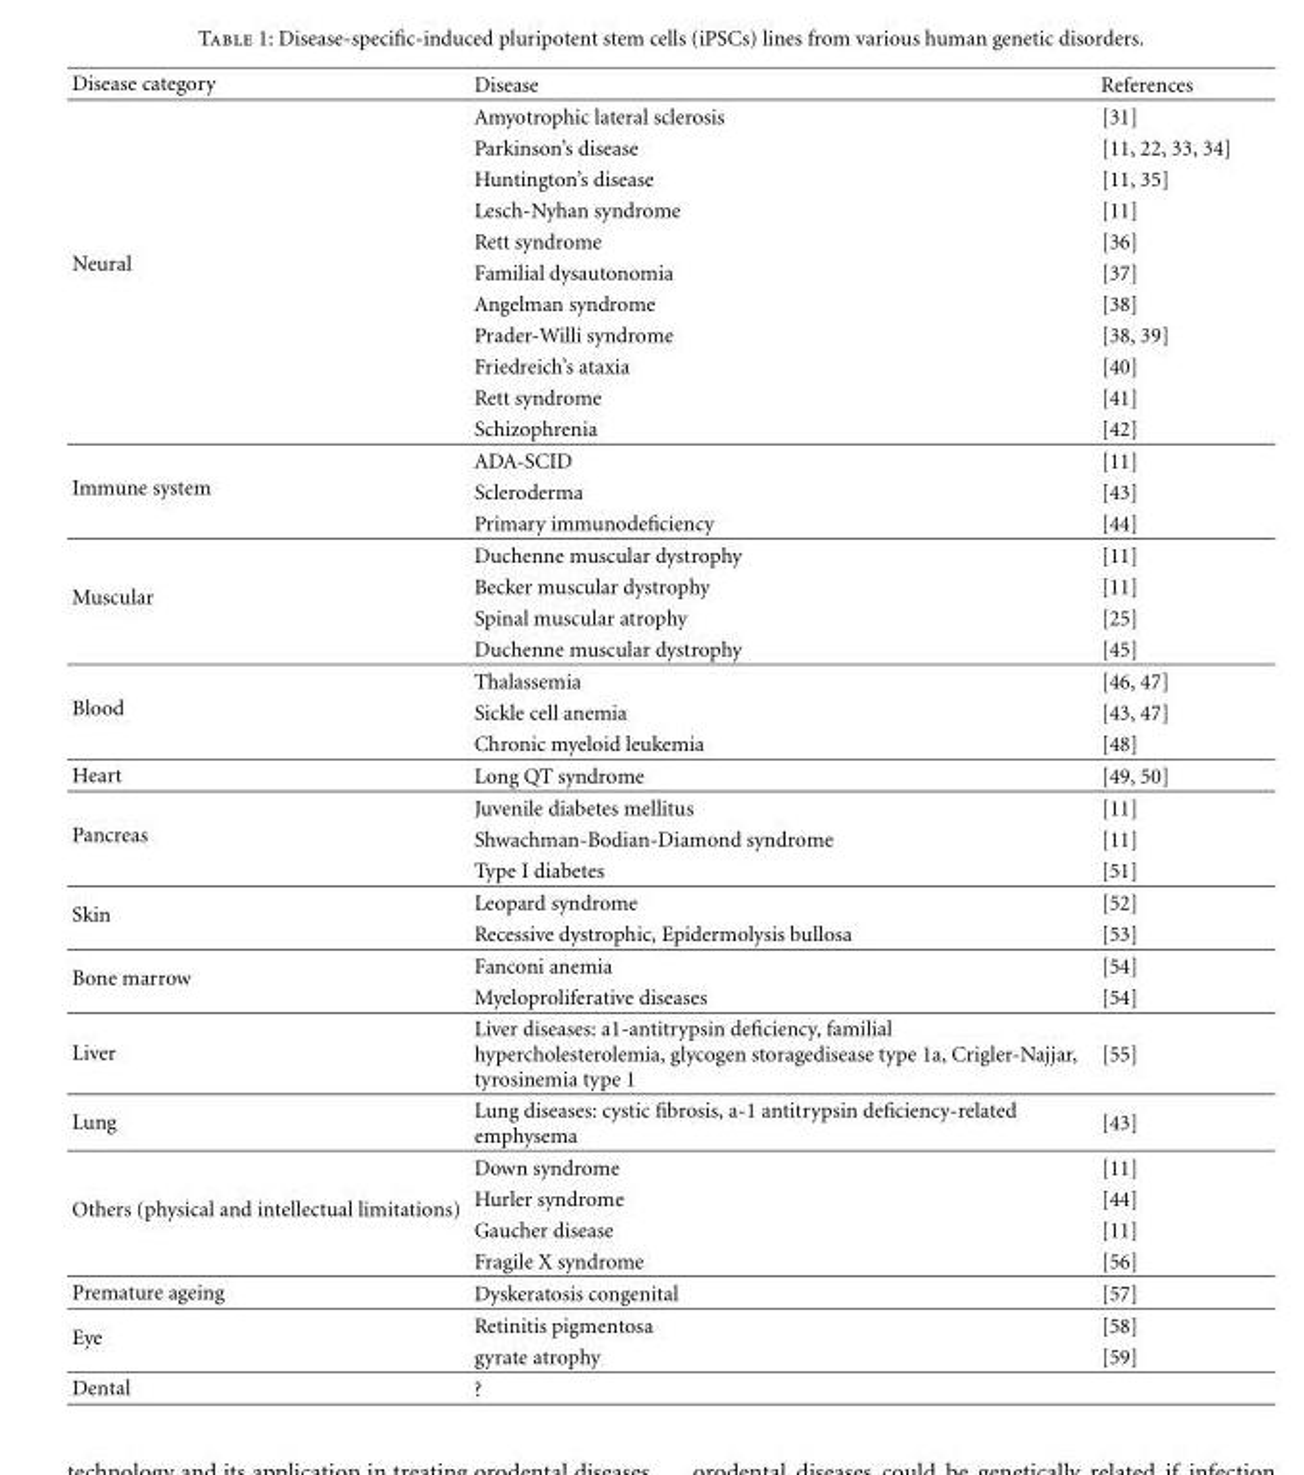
<table><thead><tr><td>Disease category</td><td>Disease</td><td>References</td></tr></thead><tbody><tr><td rowspan="11">Neural</td><td>Amyotrophic lateral sclerosis</td><td>[31]</td></tr><tr><td>Parkinson’s disease</td><td>[11, 22, 33, 34]</td></tr><tr><td>Huntington’s disease</td><td>[11, 35]</td></tr><tr><td>Lesch-Nyhan syndrome</td><td>[11]</td></tr><tr><td>Rett syndrome</td><td>[36]</td></tr><tr><td>Familial dysautonomia</td><td>[37]</td></tr><tr><td>Angelman syndrome</td><td>[38]</td></tr><tr><td>Prader-Willi syndrome</td><td>[38, 39]</td></tr><tr><td>Friedreich’s ataxia</td><td>[40]</td></tr><tr><td>Rett syndrome</td><td>[41]</td></tr><tr><td>Schizophrenia</td><td>[42]</td></tr><tr><td rowspan="3">Immune system</td><td>ADA-SCID</td><td>[11]</td></tr><tr><td>Scleroderma</td><td>[43]</td></tr><tr><td>Primary immunodeficiency</td><td>[44]</td></tr><tr><td rowspan="4">Muscular</td><td>Duchenne muscular dystrophy</td><td>[11]</td></tr><tr><td>Becker muscular dystrophy</td><td>[11]</td></tr><tr><td>Spinal muscular atrophy</td><td>[25]</td></tr><tr><td>Duchenne muscular dystrophy</td><td>[45]</td></tr><tr><td rowspan="3">Blood</td><td>Thalassemia</td><td>[46, 47]</td></tr><tr><td>Sickle cell anemia</td><td>[43, 47]</td></tr><tr><td>Chronic myeloid leukemia</td><td>[48]</td></tr><tr><td>Heart</td><td>Long QT syndrome</td><td>[49, 50]</td></tr><tr><td rowspan="3">Pancreas</td><td>Juvenile diabetes mellitus</td><td>[11]</td></tr><tr><td>Shwachman-Bodian-Diamond syndrome</td><td>[11]</td></tr><tr><td>Type I diabetes</td><td>[51]</td></tr><tr><td rowspan="2">Skin</td><td>Leopard syndrome</td><td>[52]</td></tr><tr><td>Recessive dystrophic, Epidermolysis bullosa</td><td>[53]</td></tr><tr><td rowspan="2">Bone marrow</td><td>Fanconi anemia</td><td>[54]</td></tr><tr><td>Myeloproliferative diseases</td><td>[54]</td></tr><tr><td>Liver</td><td>Liver diseases: a1-antitrypsin deficiency, familial hypercholesterolemia, glycogen storagedisease type 1a, Crigler-Najjar, tyrosinemia type 1</td><td>[55]</td></tr><tr><td>Lung</td><td>Lung diseases: cystic fibrosis, a-1 antitrypsin deficiency-related emphysema</td><td>[43]</td></tr><tr><td rowspan="4">Others (physical and intellectual limitations)</td><td>Down syndrome</td><td>[11]</td></tr><tr><td>Hurler syndrome</td><td>[44]</td></tr><tr><td>Gaucher disease</td><td>[11]</td></tr><tr><td>Fragile X syndrome</td><td>[56]</td></tr><tr><td>Premature ageing</td><td>Dyskeratosis congenital</td><td>[57]</td></tr><tr><td rowspan="2">Eye</td><td>Retinitis pigmentosa</td><td>[58]</td></tr><tr><td>gyrate atrophy</td><td>[59]</td></tr><tr><td>Dental</td><td>?</td><td></td></tr></tbody></table>